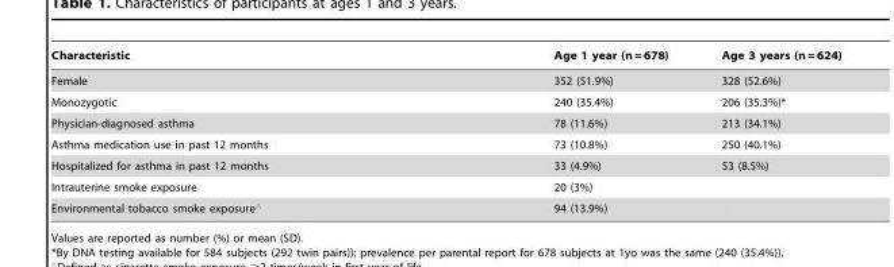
<table><thead><tr><td>Characteristic</td><td>Age 1 year (n = 678)</td><td>Age 3 years (n = 624)</td></tr></thead><tbody><tr><td>Female</td><td>352 (51.9%)</td><td>328 (52.6%)</td></tr><tr><td>Monozygotic</td><td>240 (35.4%)</td><td>206 (35.3%)*</td></tr><tr><td>Physician-diagnosed asthma</td><td>78 (11.6%)</td><td>213 (34.1%)</td></tr><tr><td>Asthma medication use in past 12 months</td><td>73 (10.8%)</td><td>250 (40.1%)</td></tr><tr><td>Hospitalized for asthma in past 12 months</td><td>33 (4.9%)</td><td>53 (8.5%)</td></tr><tr><td>Intrauterine smoke exposure</td><td>20 (3%)</td><td></td></tr><tr><td>Environmental tobacco smoke exposure‘</td><td>94 (13.9%)</td><td></td></tr></tbody></table>